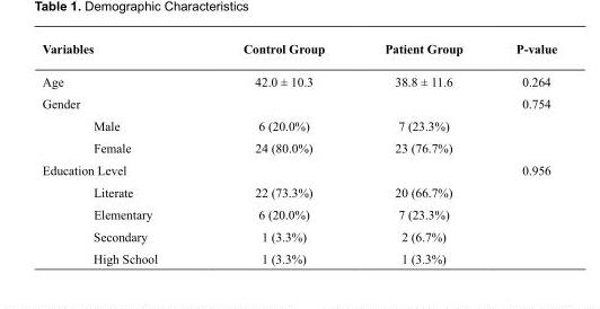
<table><thead><tr><td>Variables</td><td>Control Group</td><td>Patient Group</td><td>P-value</td></tr></thead><tbody><tr><td>Age</td><td>42.0 ± 10.3</td><td>38.8 ± 11.6</td><td>0.264</td></tr><tr><td>Gender</td><td></td><td></td><td>0.754</td></tr><tr><td>Male</td><td>6 (20.0%)</td><td>7 (23.3%)</td><td></td></tr><tr><td>Female</td><td>24 (80.0%)</td><td>23 (76.7%)</td><td></td></tr><tr><td>Education Level</td><td></td><td></td><td>0.956</td></tr><tr><td>Literate</td><td>22 (73.3%)</td><td>20 (66.7%)</td><td></td></tr><tr><td>Elementary</td><td>6 (20.0%)</td><td>7 (23.3%)</td><td></td></tr><tr><td>Secondary</td><td>1 (3.3%)</td><td>2 (6.7%)</td><td></td></tr><tr><td>High School</td><td>1 (3.3%)</td><td>1 (3.3%)</td><td></td></tr></tbody></table>